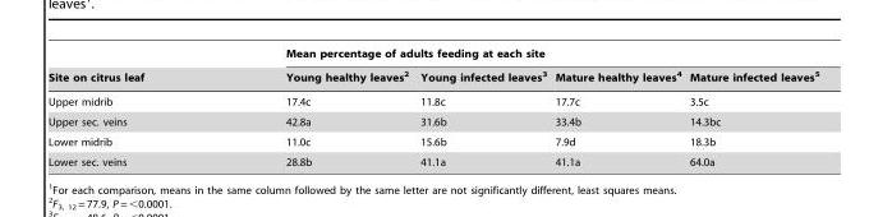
<table><thead><tr><td rowspan="2">Site on citrus leaf</td><td colspan="4">Mean percentage of adults feeding at each site</td></tr><tr><td>Young healthy leaves<sup>2</sup></td><td>Young infected leaves<sup>3</sup></td><td>Mature healthy leaves<sup>4</sup></td><td>Mature infected leaves<sup>5</sup></td></tr></thead><tbody><tr><td>Upper midrib</td><td>17.4c</td><td>11.8c</td><td>17.7c</td><td>3.5c</td></tr><tr><td>Upper sec. veins</td><td>42.8a</td><td>31.6b</td><td>33.4b</td><td>14.3bc</td></tr><tr><td>Lower midrib</td><td>11.0c</td><td>15.6b</td><td>7.9d</td><td>18.3b</td></tr><tr><td>Lower sec. veins</td><td>28.8b</td><td>41.1a</td><td>41.1a</td><td>64.0a</td></tr></tbody></table>